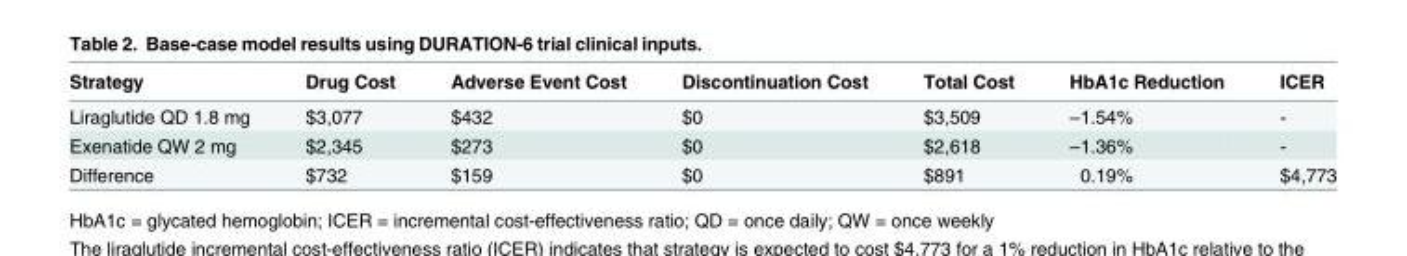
<table><thead><tr><td>Strategy</td><td>Drug Cost</td><td>Adverse Event Cost</td><td>Discontinuation Cost</td><td>Total Cost</td><td>HbA1c Reduction</td><td>ICER</td></tr></thead><tbody><tr><td>Liraglutide QD 1.8 mg</td><td>$3,077</td><td>$432</td><td>$0</td><td>$3,509</td><td>–1.54%</td><td>-</td></tr><tr><td>Exenatide QW 2 mg</td><td>$2,345</td><td>$273</td><td>$0</td><td>$2,618</td><td>–1.36%</td><td>-</td></tr><tr><td>Difference</td><td>$732</td><td>$159</td><td>$0</td><td>$891</td><td>0.19%</td><td>$4,773</td></tr></tbody></table>